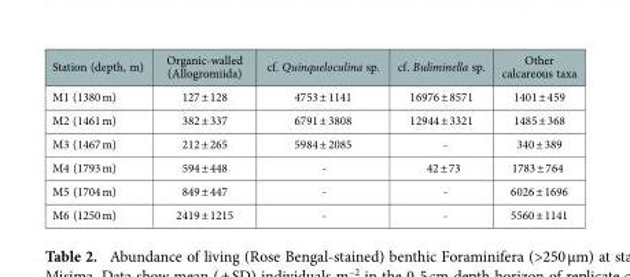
<table><thead><tr><td>Station (depth, m)</td><td>Organic-walled (Allogromiida)</td><td>cf. Quinqueloculina sp.</td><td>cf. Buliminella sp.</td><td>Other calcareous taxa</td></tr></thead><tbody><tr><td>M1 (1380 m)</td><td>127 ± 128</td><td>4753 ± 1141</td><td>16976 ± 8571</td><td>1401 ± 459</td></tr><tr><td>M2 (1461 m)</td><td>382 ± 337</td><td>6791 ± 3808</td><td>12944 ± 3321</td><td>1485 ± 368</td></tr><tr><td>M3 (1467 m)</td><td>212 ± 265</td><td>5984 ± 2085</td><td>-</td><td>340 ± 389</td></tr><tr><td>M4 (1793 m)</td><td>594 ± 448</td><td>-</td><td>42 ± 73</td><td>1783 ± 764</td></tr><tr><td>M5 (1704 m)</td><td>849 ± 447</td><td>-</td><td>-</td><td>6026 ± 1696</td></tr><tr><td>M6 (1250 m)</td><td>2419 ± 1215</td><td>-</td><td>-</td><td>5560 ± 1141</td></tr></tbody></table>